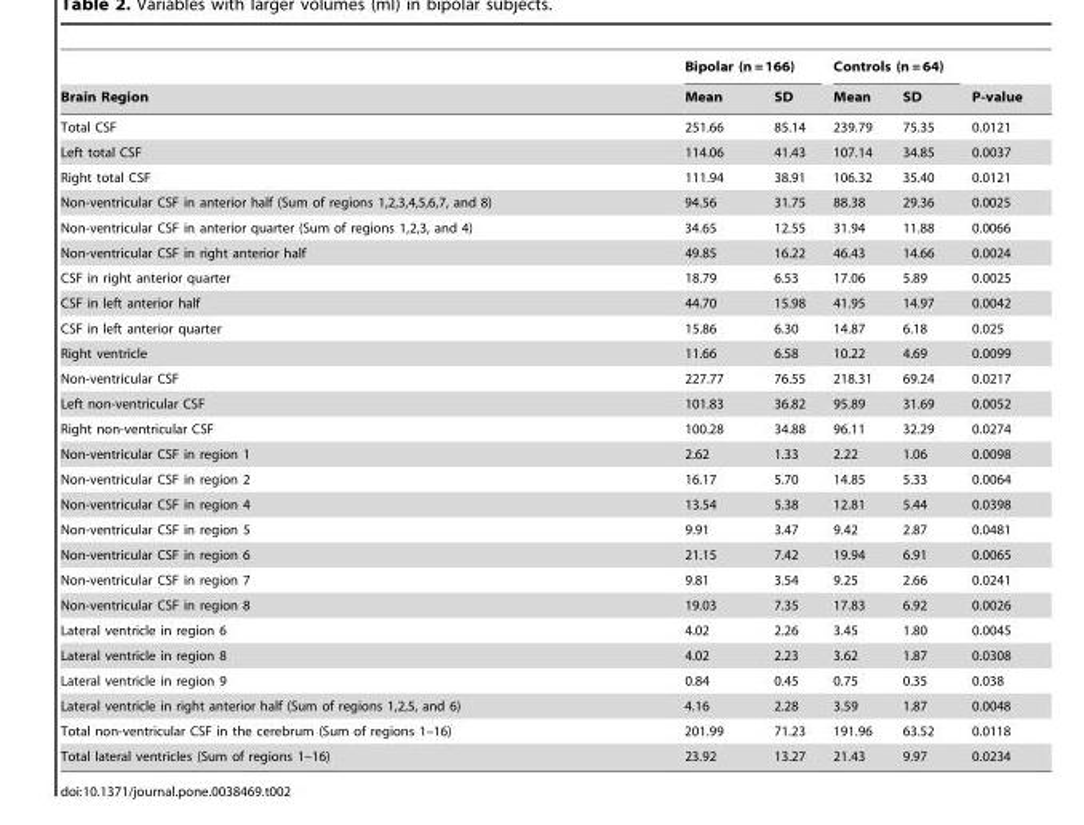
<table><thead><tr><td rowspan="2">Brain Region</td><td colspan="2">Bipolar (n = 166)</td><td colspan="2">Controls (n = 64)</td><td rowspan="2">P-value</td></tr><tr><td>Mean</td><td>SD</td><td>Mean</td><td>SD</td></tr></thead><tbody><tr><td>Total CSF</td><td>251.66</td><td>85.14</td><td>239.79</td><td>75.35</td><td>0.0121</td></tr><tr><td>Left total CSF</td><td>114.06</td><td>41.43</td><td>107.14</td><td>34.85</td><td>0.0037</td></tr><tr><td>Right total CSF</td><td>111.94</td><td>38.91</td><td>106.32</td><td>35.40</td><td>0.0121</td></tr><tr><td>Non-ventricular CSF in anterior half (Sum of regions 1,2,3,4,5,6,7, and 8)</td><td>94.56</td><td>31.75</td><td>88.38</td><td>29.36</td><td>0.0025</td></tr><tr><td>Non-ventricular CSF in anterior quarter (Sum of regions 1,2,3, and 4)</td><td>34.65</td><td>12.55</td><td>31.94</td><td>11.88</td><td>0.0066</td></tr><tr><td>Non-ventricular CSF in right anterior half</td><td>49.85</td><td>16.22</td><td>46.43</td><td>14.66</td><td>0.0024</td></tr><tr><td>CSF in right anterior quarter</td><td>18.79</td><td>6.53</td><td>17.06</td><td>5.89</td><td>0.0025</td></tr><tr><td>CSF in left anterior half</td><td>44.70</td><td>15.98</td><td>41.95</td><td>14.97</td><td>0.0042</td></tr><tr><td>CSF in left anterior quarter</td><td>15.86</td><td>6.30</td><td>14.87</td><td>6.18</td><td>0.025</td></tr><tr><td>Right ventricle</td><td>11.66</td><td>6.58</td><td>10.22</td><td>4.69</td><td>0.0099</td></tr><tr><td>Non-ventricular CSF</td><td>227.77</td><td>76.55</td><td>218.31</td><td>69.24</td><td>0.0217</td></tr><tr><td>Left non-ventricular CSF</td><td>101.83</td><td>36.82</td><td>95.89</td><td>31.69</td><td>0.0052</td></tr><tr><td>Right non-ventricular CSF</td><td>100.28</td><td>34.88</td><td>96.11</td><td>32.29</td><td>0.0274</td></tr><tr><td>Non-ventricular CSF in region 1</td><td>2.62</td><td>1.33</td><td>2.22</td><td>1.06</td><td>0.0098</td></tr><tr><td>Non-ventricular CSF in region 2</td><td>16.17</td><td>5.70</td><td>14.85</td><td>5.33</td><td>0.0064</td></tr><tr><td>Non-ventricular CSF in region 4</td><td>13.54</td><td>5.38</td><td>12.81</td><td>5.44</td><td>0.0398</td></tr><tr><td>Non-ventricular CSF in region 5</td><td>9.91</td><td>3.47</td><td>9.42</td><td>2.87</td><td>0.0481</td></tr><tr><td>Non-ventricular CSF in region 6</td><td>21.15</td><td>7.42</td><td>19.94</td><td>6.91</td><td>0.0065</td></tr><tr><td>Non-ventricular CSF in region 7</td><td>9.81</td><td>3.54</td><td>9.25</td><td>2.66</td><td>0.0241</td></tr><tr><td>Non-ventricular CSF in region 8</td><td>19.03</td><td>7.35</td><td>17.83</td><td>6.92</td><td>0.0026</td></tr><tr><td>Lateral ventricle in region 6</td><td>4.02</td><td>2.26</td><td>3.45</td><td>1.80</td><td>0.0045</td></tr><tr><td>Lateral ventricle in region 8</td><td>4.02</td><td>2.23</td><td>3.62</td><td>1.87</td><td>0.0308</td></tr><tr><td>Lateral ventricle in region 9</td><td>0.84</td><td>0.45</td><td>0.75</td><td>0.35</td><td>0.038</td></tr><tr><td>Lateral ventricle in right anterior half (Sum of regions 1,2,5, and 6)</td><td>4.16</td><td>2.28</td><td>3.59</td><td>1.87</td><td>0.0048</td></tr><tr><td>Total non-ventricular CSF in the cerebrum (Sum of regions 1–16)</td><td>201.99</td><td>71.23</td><td>191.96</td><td>63.52</td><td>0.0118</td></tr><tr><td>Total lateral ventricles (Sum of regions 1–16)</td><td>23.92</td><td>13.27</td><td>21.43</td><td>9.97</td><td>0.0234</td></tr></tbody></table>